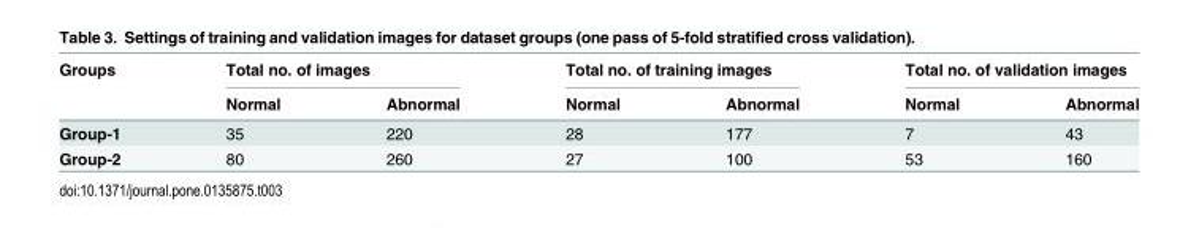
<table><thead><tr><td rowspan="2">Groups</td><td colspan="2">Total no. of images</td><td colspan="2">Total no. of training images</td><td colspan="2">Total no. of validation images</td></tr><tr><td>Normal</td><td>Abnormal</td><td>Normal</td><td>Abnormal</td><td>Normal</td><td>Abnormal</td></tr></thead><tbody><tr><td>Group-1</td><td>35</td><td>220</td><td>28</td><td>177</td><td>7</td><td>43</td></tr><tr><td>Group-2</td><td>80</td><td>260</td><td>27</td><td>100</td><td>53</td><td>160</td></tr></tbody></table>